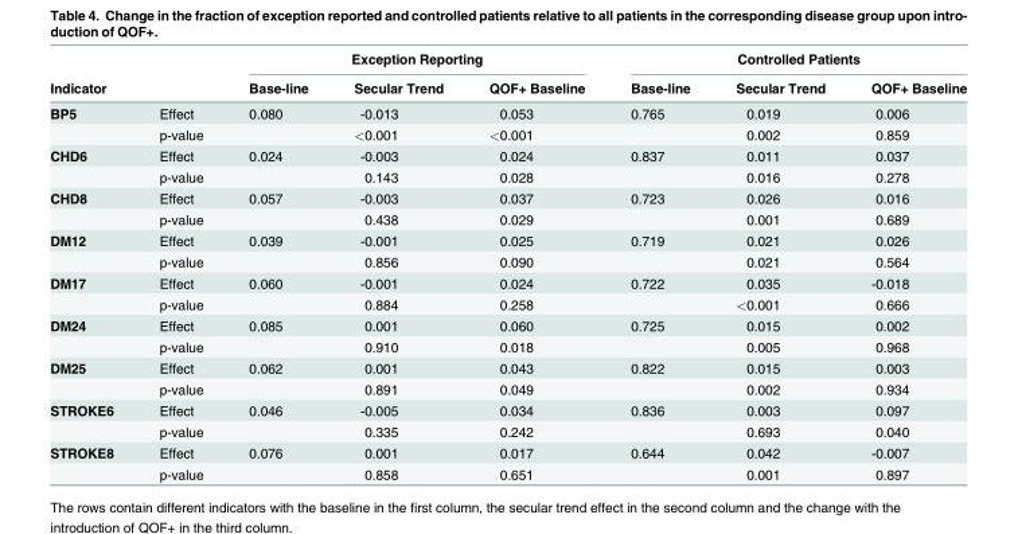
<table><thead><tr><td rowspan="2">Indicator</td><td rowspan="2"></td><td colspan="3">Exception Reporting</td><td colspan="3">Controlled Patients</td></tr><tr><td>Base-line</td><td>Secular Trend</td><td>QOF+ Baseline</td><td>Base-line</td><td>Secular Trend</td><td>QOF+ Baseline</td></tr></thead><tbody><tr><td rowspan="2">BP5</td><td>Effect</td><td>0.080</td><td>-0.013</td><td>0.053</td><td>0.765</td><td>0.019</td><td>0.006</td></tr><tr><td>p-value</td><td></td><td>&lt;0.001</td><td>&lt;0.001</td><td></td><td>0.002</td><td>0.859</td></tr><tr><td rowspan="2">CHD6</td><td>Effect</td><td>0.024</td><td>-0.003</td><td>0.024</td><td>0.837</td><td>0.011</td><td>0.037</td></tr><tr><td>p-value</td><td></td><td>0.143</td><td>0.028</td><td></td><td>0.016</td><td>0.278</td></tr><tr><td rowspan="2">CHD8</td><td>Effect</td><td>0.057</td><td>-0.003</td><td>0.037</td><td>0.723</td><td>0.026</td><td>0.016</td></tr><tr><td>p-value</td><td></td><td>0.438</td><td>0.029</td><td></td><td>0.001</td><td>0.689</td></tr><tr><td rowspan="2">DM12</td><td>Effect</td><td>0.039</td><td>-0.001</td><td>0.025</td><td>0.719</td><td>0.021</td><td>0.026</td></tr><tr><td>p-value</td><td></td><td>0.856</td><td>0.090</td><td></td><td>0.021</td><td>0.564</td></tr><tr><td rowspan="2">DM17</td><td>Effect</td><td>0.060</td><td>-0.001</td><td>0.024</td><td>0.722</td><td>0.035</td><td>-0.018</td></tr><tr><td>p-value</td><td></td><td>0.884</td><td>0.258</td><td></td><td>&lt;0.001</td><td>0.666</td></tr><tr><td rowspan="2">DM24</td><td>Effect</td><td>0.085</td><td>0.001</td><td>0.060</td><td>0.725</td><td>0.015</td><td>0.002</td></tr><tr><td>p-value</td><td></td><td>0.910</td><td>0.018</td><td></td><td>0.005</td><td>0.968</td></tr><tr><td rowspan="2">DM25</td><td>Effect</td><td>0.062</td><td>0.001</td><td>0.043</td><td>0.822</td><td>0.015</td><td>0.003</td></tr><tr><td>p-value</td><td></td><td>0.891</td><td>0.049</td><td></td><td>0.002</td><td>0.934</td></tr><tr><td rowspan="2">STROKE6</td><td>Effect</td><td>0.046</td><td>-0.005</td><td>0.034</td><td>0.836</td><td>0.003</td><td>0.097</td></tr><tr><td>p-value</td><td></td><td>0.335</td><td>0.242</td><td></td><td>0.693</td><td>0.040</td></tr><tr><td rowspan="2">STROKE8</td><td>Effect</td><td>0.076</td><td>0.001</td><td>0.017</td><td>0.644</td><td>0.042</td><td>-0.007</td></tr><tr><td>p-value</td><td></td><td>0.858</td><td>0.651</td><td></td><td>0.001</td><td>0.897</td></tr></tbody></table>